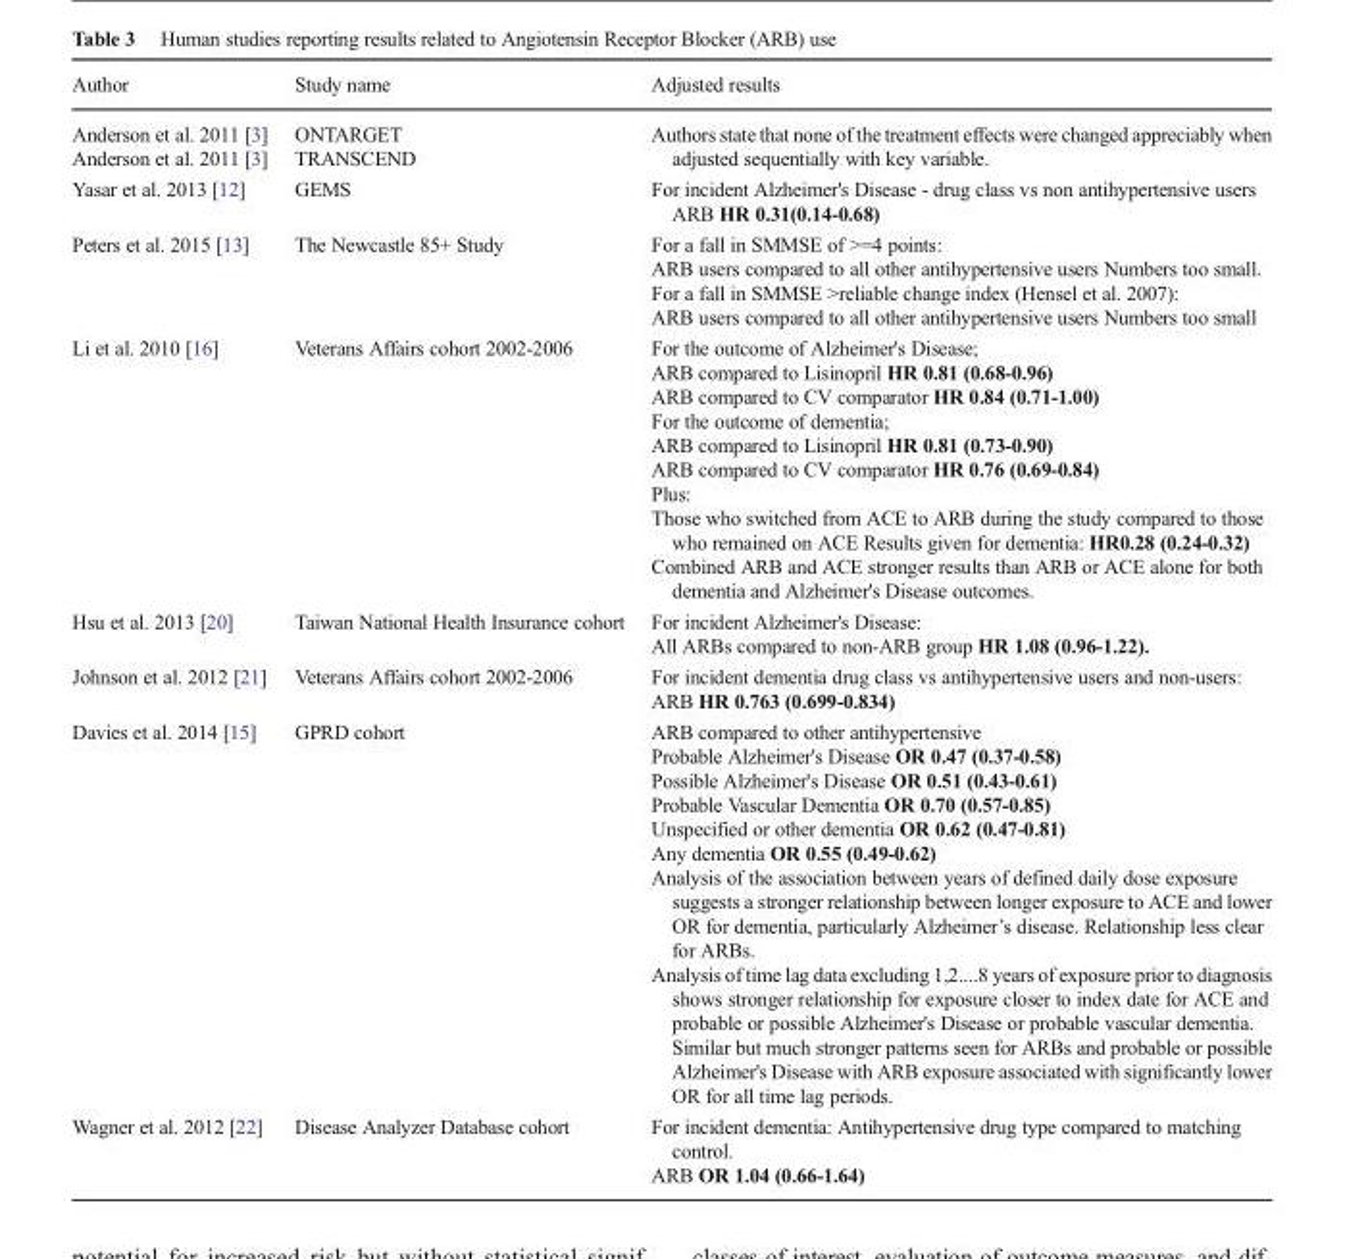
<table><thead><tr><td>Author</td><td>Study name</td><td>Adjusted results</td></tr></thead><tbody><tr><td>Anderson et al. 2011 [3]</td><td>ONTARGET</td><td rowspan="2">Authors state that none of the treatment effects were changed appreciably when adjusted sequentially with key variable.</td></tr><tr><td>Anderson et al. 2011 [3]</td><td>TRANSCEND</td></tr><tr><td>Yasar et al. 2013 [12]</td><td>GEMS</td><td>For incident Alzheimer&#x27;s Disease - drug class vs non antihypertensive users ARB HR 0.31(0.14-0.68)</td></tr><tr><td>Peters et al. 2015 [13]</td><td>The Newcastle 85+ Study</td><td>For a fall in SMMSE of &gt;=4 points: ARB users compared to all other antihypertensive users Numbers too small. For a fall in SMMSE &gt;reliable change index (Hensel et al. 2007): ARB users compared to all other antihypertensive users Numbers too small</td></tr><tr><td>Li et al. 2010 [16]</td><td>Veterans Affairs cohort 2002-2006</td><td>For the outcome of Alzheimer&#x27;s Disease; ARB compared to Lisinopril HR 0.81 (0.68-0.96) ARB compared to CV comparator HR 0.84 (0.71-1.00) For the outcome of dementia; ARB compared to Lisinopril HR 0.81 (0.73-0.90) ARB compared to CV comparator HR 0.76 (0.69-0.84) Plus: Those who switched from ACE to ARB during the study compared to those who remained on ACE Results given for dementia: HR0.28 (0.24-0.32) Combined ARB and ACE stronger results than ARB or ACE alone for both dementia and Alzheimer&#x27;s Disease outcomes.</td></tr><tr><td>Hsu et al. 2013 [20]</td><td>Taiwan National Health Insurance cohort</td><td>For incident Alzheimer&#x27;s Disease: All ARBs compared to non-ARB group HR 1.08 (0.96-1.22).</td></tr><tr><td>Johnson et al. 2012 [21]</td><td>Veterans Affairs cohort 2002-2006</td><td>For incident dementia drug class vs antihypertensive users and non-users: ARB HR 0.763 (0.699-0.834)</td></tr><tr><td>Davies et al. 2014 [15]</td><td>GPRD cohort</td><td>ARB compared to other antihypertensive Probable Alzheimer&#x27;s Disease OR 0.47 (0.37-0.58) Possible Alzheimer&#x27;s Disease OR 0.51 (0.43-0.61) Probable Vascular Dementia OR 0.70 (0.57-0.85) Unspecified or other dementia OR 0.62 (0.47-0.81) Any dementia OR 0.55 (0.49-0.62) Analysis of the association between years of defined daily dose exposure suggests a stronger relationship between longer exposure to ACE and lower OR for dementia, particularly Alzheimer’s disease. Relationship less clear for ARBs. Analysis of time lag data excluding 1,2....8 years of exposure prior to diagnosis shows stronger relationship for exposure closer to index date for ACE and probable or possible Alzheimer&#x27;s Disease or probable vascular dementia. Similar but much stronger patterns seen for ARBs and probable or possible Alzheimer&#x27;s Disease with ARB exposure associated with significantly lower OR for all time lag periods.</td></tr><tr><td>Wagner et al. 2012 [22]</td><td>Disease Analyzer Database cohort</td><td>For incident dementia: Antihypertensive drug type compared to matching control. ARB OR 1.04 (0.66-1.64)</td></tr></tbody></table>